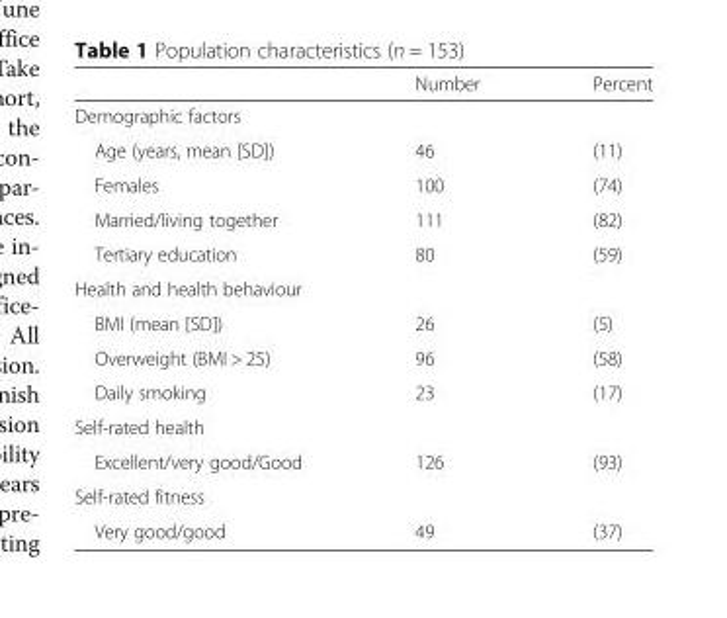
<table><thead><tr><td></td><td>Number</td><td>Percent</td></tr></thead><tbody><tr><td colspan="3">Demographic factors</td></tr><tr><td>Age (years, mean [SD])</td><td>46</td><td>(11)</td></tr><tr><td>Females</td><td>100</td><td>(74)</td></tr><tr><td>Married/living together</td><td>111</td><td>(82)</td></tr><tr><td>Tertiary education</td><td>80</td><td>(59)</td></tr><tr><td colspan="3">Health and health behaviour</td></tr><tr><td>BMI (mean [SD])</td><td>26</td><td>(5)</td></tr><tr><td>Overweight (BMI &gt; 25)</td><td>96</td><td>(58)</td></tr><tr><td>Daily smoking</td><td>23</td><td>(17)</td></tr><tr><td colspan="3">Self-rated health</td></tr><tr><td>Excellent/very good/Good</td><td>126</td><td>(93)</td></tr><tr><td colspan="3">Self-rated fitness</td></tr><tr><td>Very good/good</td><td>49</td><td>(37)</td></tr></tbody></table>